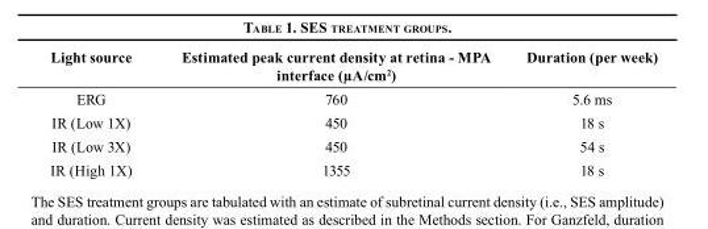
<table><thead><tr><td>Light source</td><td>Estimated peak current density at retina - MPA interface (µA/cm<sup>2</sup>)</td><td>Duration (per week)</td></tr></thead><tbody><tr><td>ERG</td><td>760</td><td>5.6 ms</td></tr><tr><td>IR (Low 1X)</td><td>450</td><td>18 s</td></tr><tr><td>IR (Low 3X)</td><td>450</td><td>54 s</td></tr><tr><td>IR (High 1X)</td><td>1355</td><td>18 s</td></tr></tbody></table>